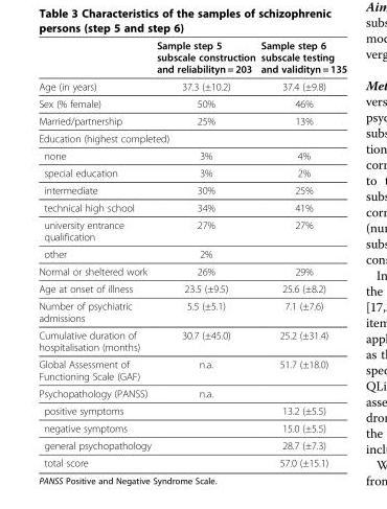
<table><thead><tr><td></td><td>Sample step 5 subscale construction and reliabilityn = 203</td><td>Sample step 6 subscale testing and validityn = 135</td></tr></thead><tbody><tr><td>Age (in years)</td><td>37.3 (±10.2)</td><td>37.4 (±9.8)</td></tr><tr><td>Sex (% female)</td><td>50%</td><td>46%</td></tr><tr><td>Married/partnership</td><td>25%</td><td>13%</td></tr><tr><td colspan="3">Education (highest completed)</td></tr><tr><td>none</td><td>3%</td><td>4%</td></tr><tr><td>special education</td><td>3%</td><td>2%</td></tr><tr><td>intermediate</td><td>30%</td><td>25%</td></tr><tr><td>technical high school</td><td>34%</td><td>41%</td></tr><tr><td>university entrance qualification</td><td>27%</td><td>27%</td></tr><tr><td>other</td><td>2%</td><td></td></tr><tr><td>Normal or sheltered work</td><td>26%</td><td>29%</td></tr><tr><td>Age at onset of illness</td><td>23.5 (±9.5)</td><td>25.6 (±8.2)</td></tr><tr><td>Number of psychiatric admissions</td><td>5.5 (±5.1)</td><td>7.1 (±7.6)</td></tr><tr><td>Cumulative duration of hospitalisation (months)</td><td>30.7 (±45.0)</td><td>25.2 (±31.4)</td></tr><tr><td>Global Assessment of Functioning Scale (GAF)</td><td>n.a.</td><td>51.7 (±18.0)</td></tr><tr><td>Psychopathology (PANSS)</td><td>n.a.</td><td></td></tr><tr><td>positive symptoms</td><td></td><td>13.2 (±5.5)</td></tr><tr><td>negative symptoms</td><td></td><td>15.0 (±5.5)</td></tr><tr><td>general psychopathology</td><td></td><td>28.7 (±7.3)</td></tr><tr><td>total score</td><td></td><td>57.0 (±15.1)</td></tr></tbody></table>